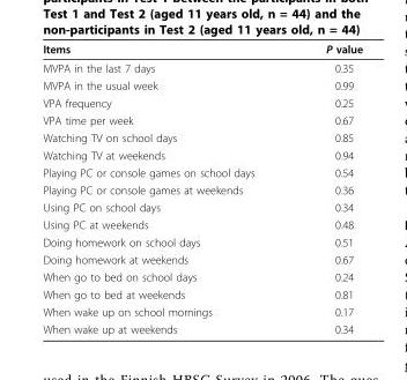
<table><thead><tr><td>Items</td><td>P value</td></tr></thead><tbody><tr><td>MVPA in the last 7 days</td><td>0.35</td></tr><tr><td>MVPA in the usual week</td><td>0.99</td></tr><tr><td>VPA frequency</td><td>0.25</td></tr><tr><td>VPA time per week</td><td>0.67</td></tr><tr><td>Watching TV on school days</td><td>0.85</td></tr><tr><td>Watching TV at weekends</td><td>0.94</td></tr><tr><td>Playing PC or console games on school days</td><td>0.54</td></tr><tr><td>Playing PC or console games at weekends</td><td>0.36</td></tr><tr><td>Using PC on school days</td><td>0.34</td></tr><tr><td>Using PC at weekends</td><td>0.48</td></tr><tr><td>Doing homework on school days</td><td>0.51</td></tr><tr><td>Doing homework at weekends</td><td>0.67</td></tr><tr><td>When go to bed on school days</td><td>0.24</td></tr><tr><td>When go to bed at weekends</td><td>0.81</td></tr><tr><td>When wake up on school mornings</td><td>0.17</td></tr><tr><td>When wake up at weekends</td><td>0.34</td></tr></tbody></table>